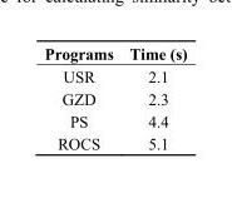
<table><thead><tr><td>Programs</td><td>Time (s)</td></tr></thead><tbody><tr><td>USR</td><td>2.1</td></tr><tr><td>GZD</td><td>2.3</td></tr><tr><td>PS</td><td>4.4</td></tr><tr><td>ROCS</td><td>5.1</td></tr></tbody></table>